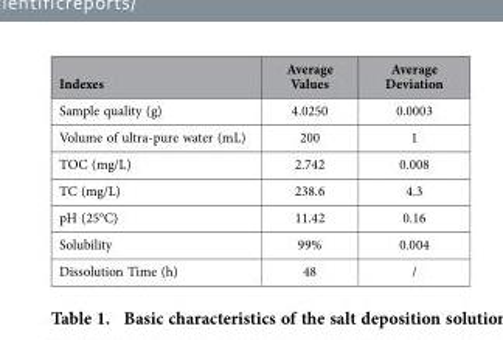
<table><thead><tr><td>Indexes</td><td>Average Values</td><td>Average Deviation</td></tr></thead><tbody><tr><td>Sample quality (g)</td><td>4.0250</td><td>0.0003</td></tr><tr><td>Volume of ultra-pure water (mL)</td><td>200</td><td>1</td></tr><tr><td>TOC (mg/L)</td><td>2.742</td><td>0.008</td></tr><tr><td>TC (mg/L)</td><td>238.6</td><td>4.3</td></tr><tr><td>pH (25°C)</td><td>11.42</td><td>0.16</td></tr><tr><td>Solubility</td><td>99%</td><td>0.004</td></tr><tr><td>Dissolution Time (h)</td><td>48</td><td>/</td></tr></tbody></table>